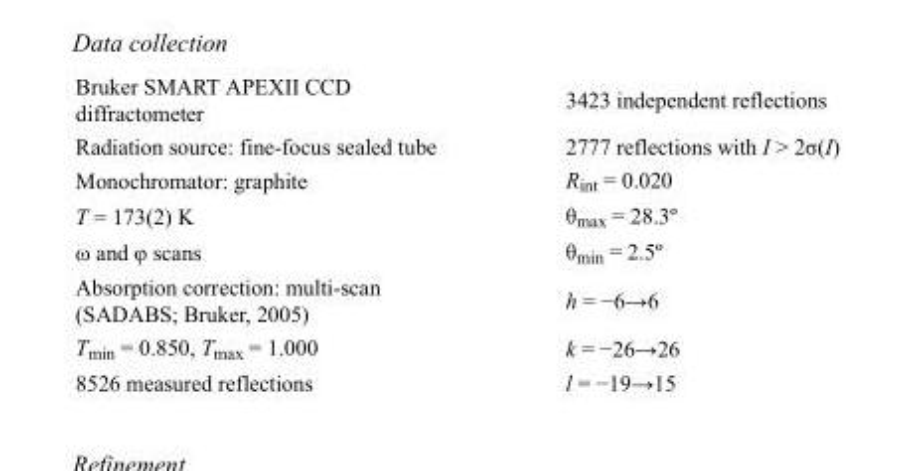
<table><tbody><tr><td>Bruker SMART APEXII CCD diffractometer</td><td>3423 independent reflections</td></tr><tr><td>Radiation source: fine-focus sealed tube</td><td>2777 reflections with I &gt; 2σ(I)</td></tr><tr><td>Monochromator: graphite</td><td>R<sub>int</sub> = 0.020</td></tr><tr><td>T = 173(2) K</td><td>θ<sub>max</sub> = 28.3º</td></tr><tr><td>ω and φ scans</td><td>θ<sub>min</sub> = 2.5º</td></tr><tr><td>Absorption correction: multi-scan (SADABS; Bruker, 2005)</td><td>h = −6→6</td></tr><tr><td>T<sub>min</sub> = 0.850, T<sub>max</sub> = 1.000</td><td>k = −26→26</td></tr><tr><td>8526 measured reflections</td><td>l = −19→15</td></tr></tbody></table>